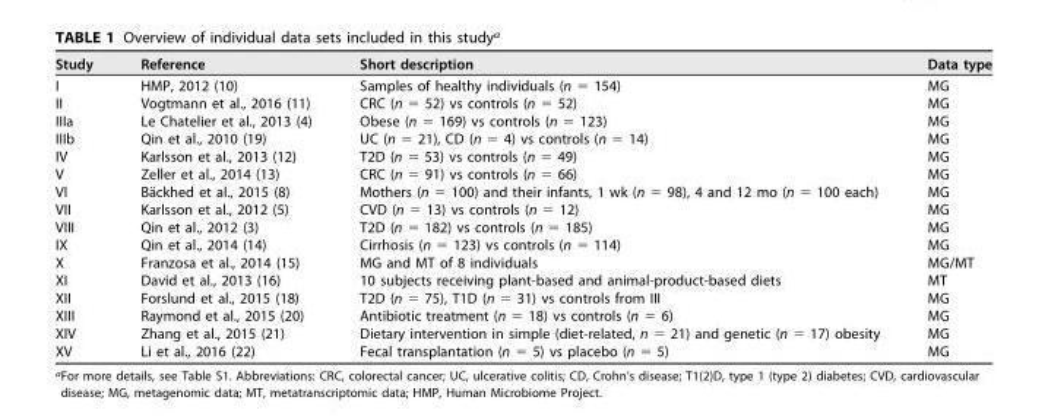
<table><thead><tr><td>Study</td><td>Reference</td><td>Short description</td><td>Data type</td></tr></thead><tbody><tr><td>I</td><td>HMP, 2012 (10)</td><td>Samples of healthy individuals (n = 154)</td><td>MG</td></tr><tr><td>II</td><td>Vogtmann et al., 2016 (11)</td><td>CRC (n = 52) vs controls (n = 52)</td><td>MG</td></tr><tr><td>IIIa</td><td>Le Chatelier et al., 2013 (4)</td><td>Obese (n = 169) vs controls (n = 123)</td><td>MG</td></tr><tr><td>IIIb</td><td>Qin et al., 2010 (19)</td><td>UC (n = 21), CD (n = 4) vs controls (n = 14)</td><td>MG</td></tr><tr><td>IV</td><td>Karlsson et al., 2013 (12)</td><td>T2D (n = 53) vs controls (n = 49)</td><td>MG</td></tr><tr><td>V</td><td>Zeller et al., 2014 (13)</td><td>CRC (n = 91) vs controls (n = 66)</td><td>MG</td></tr><tr><td>VI</td><td>Bäckhed et al., 2015 (8)</td><td>Mothers (n = 100) and their infants, 1 wk (n = 98), 4 and 12 mo (n = 100 each)</td><td>MG</td></tr><tr><td>VII</td><td>Karlsson et al., 2012 (5)</td><td>CVD (n = 13) vs controls (n = 12)</td><td>MG</td></tr><tr><td>VIII</td><td>Qin et al., 2012 (3)</td><td>T2D (n = 182) vs controls (n = 185)</td><td>MG</td></tr><tr><td>IX</td><td>Qin et al., 2014 (14)</td><td>Cirrhosis (n = 123) vs controls (n = 114)</td><td>MG</td></tr><tr><td>X</td><td>Franzosa et al., 2014 (15)</td><td>MG and MT of 8 individuals</td><td>MG/MT</td></tr><tr><td>XI</td><td>David et al., 2013 (16)</td><td>10 subjects receiving plant-based and animal-product-based diets</td><td>MT</td></tr><tr><td>XII</td><td>Forslund et al., 2015 (18)</td><td>T2D (n = 75), T1D (n = 31) vs controls from III</td><td>MG</td></tr><tr><td>XIII</td><td>Raymond et al., 2015 (20)</td><td>Antibiotic treatment (n = 18) vs controls (n = 6)</td><td>MG</td></tr><tr><td>XIV</td><td>Zhang et al., 2015 (21)</td><td>Dietary intervention in simple (diet-related, n = 21) and genetic (n = 17) obesity</td><td>MG</td></tr><tr><td>XV</td><td>Li et al., 2016 (22)</td><td>Fecal transplantation (n = 5) vs placebo (n = 5)</td><td>MG</td></tr></tbody></table>